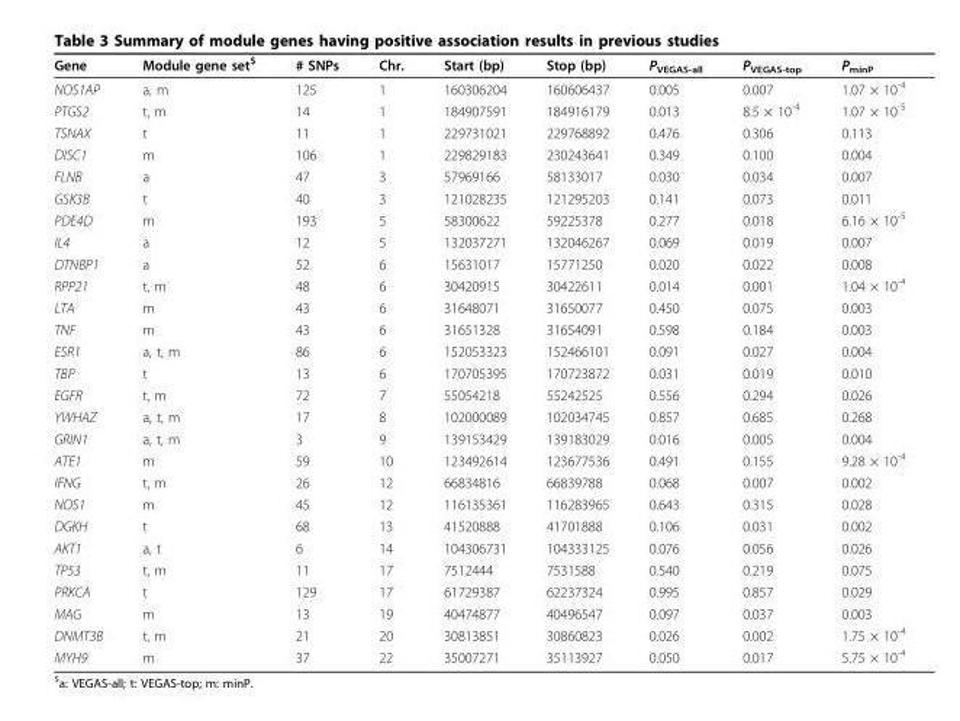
<table><thead><tr><td>Gene</td><td>Module gene set<sup>$</sup></td><td># SNPs</td><td>Chr.</td><td>Start (bp)</td><td>Stop (bp)</td><td>P<sub>VEGAS-all</sub></td><td>P<sub>VEGAS-top</sub></td><td>P<sub>minP</sub></td></tr></thead><tbody><tr><td>NOS1AP</td><td>a, m</td><td>125</td><td>1</td><td>160306204</td><td>160606437</td><td>0.005</td><td>0.007</td><td>1.07 × 10<sup>-4</sup></td></tr><tr><td>PTGS2</td><td>t, m</td><td>14</td><td>1</td><td>184907591</td><td>184916179</td><td>0.013</td><td>8.5 × 10<sup>-4</sup></td><td>1.07 × 10<sup>-5</sup></td></tr><tr><td>TSNAX</td><td>t</td><td>11</td><td>1</td><td>229731021</td><td>229768892</td><td>0.476</td><td>0.306</td><td>0.113</td></tr><tr><td>DISC1</td><td>m</td><td>106</td><td>1</td><td>229829183</td><td>230243641</td><td>0.349</td><td>0.100</td><td>0.004</td></tr><tr><td>FLNB</td><td>a</td><td>47</td><td>3</td><td>57969166</td><td>58133017</td><td>0.030</td><td>0.034</td><td>0.007</td></tr><tr><td>GSK3B</td><td>t</td><td>40</td><td>3</td><td>121028235</td><td>121295203</td><td>0.141</td><td>0.073</td><td>0.011</td></tr><tr><td>PDE4D</td><td>m</td><td>193</td><td>5</td><td>58300622</td><td>59225378</td><td>0.277</td><td>0.018</td><td>6.16 × 10<sup>-5</sup></td></tr><tr><td>IL4</td><td>a</td><td>12</td><td>5</td><td>132037271</td><td>132046267</td><td>0.069</td><td>0.019</td><td>0.007</td></tr><tr><td>DTNBP1</td><td>a</td><td>52</td><td>6</td><td>15631017</td><td>15771250</td><td>0.020</td><td>0.022</td><td>0.008</td></tr><tr><td>RPP21</td><td>t, m</td><td>48</td><td>6</td><td>30420915</td><td>30422611</td><td>0.014</td><td>0.001</td><td>1.04 × 10<sup>-4</sup></td></tr><tr><td>LTA</td><td>m</td><td>43</td><td>6</td><td>31648071</td><td>31650077</td><td>0.450</td><td>0.075</td><td>0.003</td></tr><tr><td>TNF</td><td>m</td><td>43</td><td>6</td><td>31651328</td><td>31654091</td><td>0.598</td><td>0.184</td><td>0.003</td></tr><tr><td>ESR1</td><td>a, t, m</td><td>86</td><td>6</td><td>152053323</td><td>152466101</td><td>0.091</td><td>0.027</td><td>0.004</td></tr><tr><td>TBP</td><td>t</td><td>13</td><td>6</td><td>170705395</td><td>170723872</td><td>0.031</td><td>0.019</td><td>0.010</td></tr><tr><td>EGFR</td><td>t, m</td><td>72</td><td>7</td><td>55054218</td><td>55242525</td><td>0.556</td><td>0.294</td><td>0.026</td></tr><tr><td>YWHAZ</td><td>a, t, m</td><td>17</td><td>8</td><td>102000089</td><td>102034745</td><td>0.857</td><td>0.685</td><td>0.268</td></tr><tr><td>GRIN1</td><td>a, t, m</td><td>3</td><td>9</td><td>139153429</td><td>139183029</td><td>0.016</td><td>0.005</td><td>0.004</td></tr><tr><td>ATE1</td><td>m</td><td>59</td><td>10</td><td>123492614</td><td>123677536</td><td>0.491</td><td>0.155</td><td>9.28 × 10<sup>-4</sup></td></tr><tr><td>IFNG</td><td>t, m</td><td>26</td><td>12</td><td>66834816</td><td>66839788</td><td>0.068</td><td>0.007</td><td>0.002</td></tr><tr><td>NOS1</td><td>m</td><td>45</td><td>12</td><td>116135361</td><td>116283965</td><td>0.643</td><td>0.315</td><td>0.028</td></tr><tr><td>DGKH</td><td>t</td><td>68</td><td>13</td><td>41520888</td><td>41701888</td><td>0.106</td><td>0.031</td><td>0.002</td></tr><tr><td>AKT1</td><td>a, t</td><td>6</td><td>14</td><td>104306731</td><td>104333125</td><td>0.076</td><td>0.056</td><td>0.026</td></tr><tr><td>TP53</td><td>t, m</td><td>11</td><td>17</td><td>7512444</td><td>7531588</td><td>0.540</td><td>0.219</td><td>0.075</td></tr><tr><td>PRKCA</td><td>t</td><td>129</td><td>17</td><td>61729387</td><td>62237324</td><td>0.995</td><td>0.857</td><td>0.029</td></tr><tr><td>MAG</td><td>m</td><td>13</td><td>19</td><td>40474877</td><td>40496547</td><td>0.097</td><td>0.037</td><td>0.003</td></tr><tr><td>DNMT3B</td><td>t, m</td><td>21</td><td>20</td><td>30813851</td><td>30860823</td><td>0.026</td><td>0.002</td><td>1.75 × 10<sup>-4</sup></td></tr><tr><td>MYH9</td><td>m</td><td>37</td><td>22</td><td>35007271</td><td>35113927</td><td>0.050</td><td>0.017</td><td>5.75 × 10<sup>-4</sup></td></tr></tbody></table>